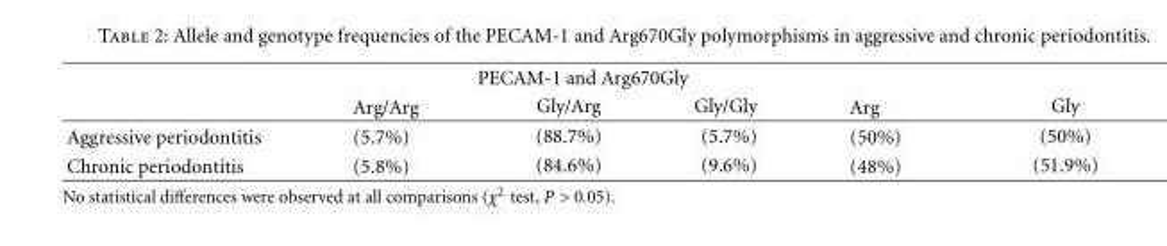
<table><thead><tr><td colspan="6">PECAM-1 and Arg670Gly</td></tr><tr><td></td><td>Arg/Arg</td><td>Gly/Arg</td><td>Gly/Gly</td><td>Arg</td><td>Gly</td></tr></thead><tbody><tr><td>Aggressive periodontitis</td><td>(5.7%)</td><td>(88.7%)</td><td>(5.7%)</td><td>(50%)</td><td>(50%)</td></tr><tr><td>Chronic periodontitis</td><td>(5.8%)</td><td>(84.6%)</td><td>(9.6%)</td><td>(48%)</td><td>(51.9%)</td></tr></tbody></table>